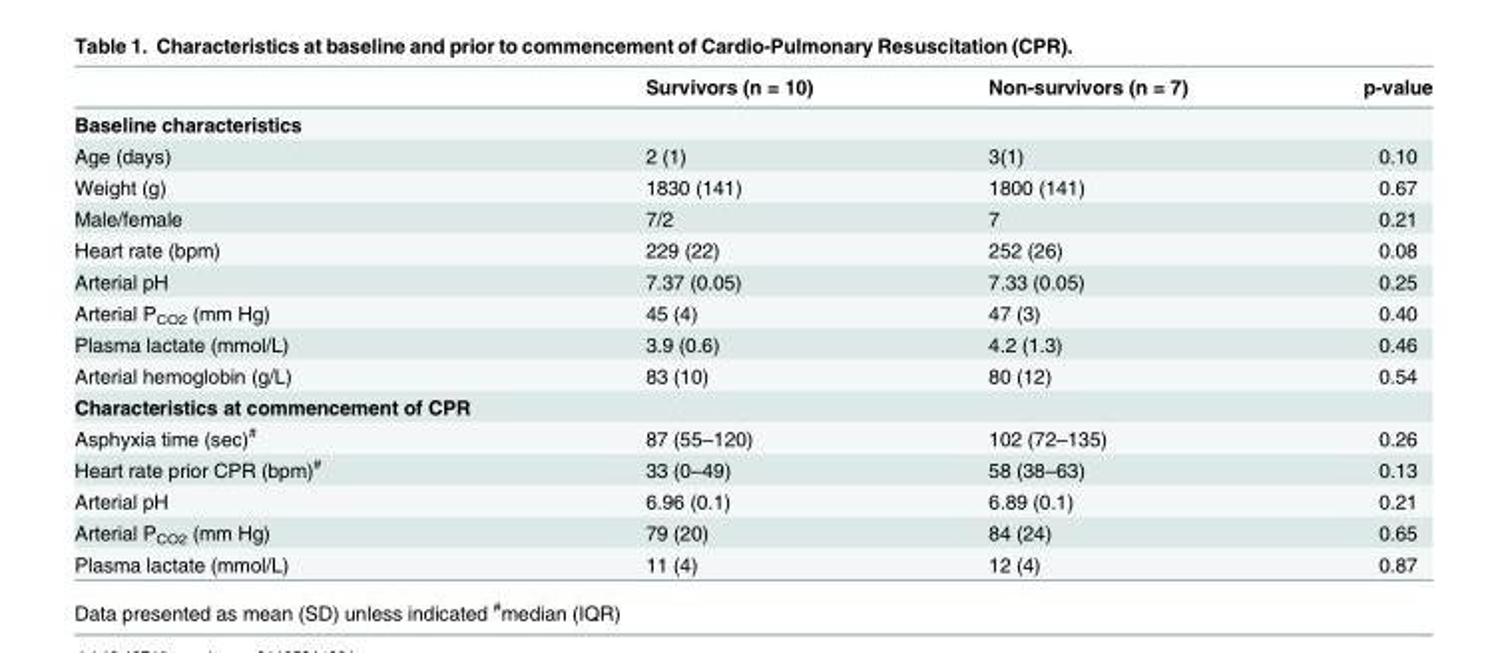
<table><thead><tr><td></td><td>Survivors (n = 10)</td><td>Non-survivors (n = 7)</td><td>p-value</td></tr></thead><tbody><tr><td colspan="4">Baseline characteristics</td></tr><tr><td>Age (days)</td><td>2 (1)</td><td>3(1)</td><td>0.10</td></tr><tr><td>Weight (g)</td><td>1830 (141)</td><td>1800 (141)</td><td>0.67</td></tr><tr><td>Male/female</td><td>7/2</td><td>7</td><td>0.21</td></tr><tr><td>Heart rate (bpm)</td><td>229 (22)</td><td>252 (26)</td><td>0.08</td></tr><tr><td>Arterial pH</td><td>7.37 (0.05)</td><td>7.33 (0.05)</td><td>0.25</td></tr><tr><td>Arterial P<sub>CO2</sub> (mm Hg)</td><td>45 (4)</td><td>47 (3)</td><td>0.40</td></tr><tr><td>Plasma lactate (mmol/L)</td><td>3.9 (0.6)</td><td>4.2 (1.3)</td><td>0.46</td></tr><tr><td>Arterial hemoglobin (g/L)</td><td>83 (10)</td><td>80 (12)</td><td>0.54</td></tr><tr><td colspan="4">Characteristics at commencement of CPR</td></tr><tr><td>Asphyxia time (sec)<sup>#</sup></td><td>87 (55–120)</td><td>102 (72–135)</td><td>0.26</td></tr><tr><td>Heart rate prior CPR (bpm)<sup>#</sup></td><td>33 (0–49)</td><td>58 (38–63)</td><td>0.13</td></tr><tr><td>Arterial pH</td><td>6.96 (0.1)</td><td>6.89 (0.1)</td><td>0.21</td></tr><tr><td>Arterial P<sub>CO2</sub> (mm Hg)</td><td>79 (20)</td><td>84 (24)</td><td>0.65</td></tr><tr><td>Plasma lactate (mmol/L)</td><td>11 (4)</td><td>12 (4)</td><td>0.87</td></tr></tbody></table>